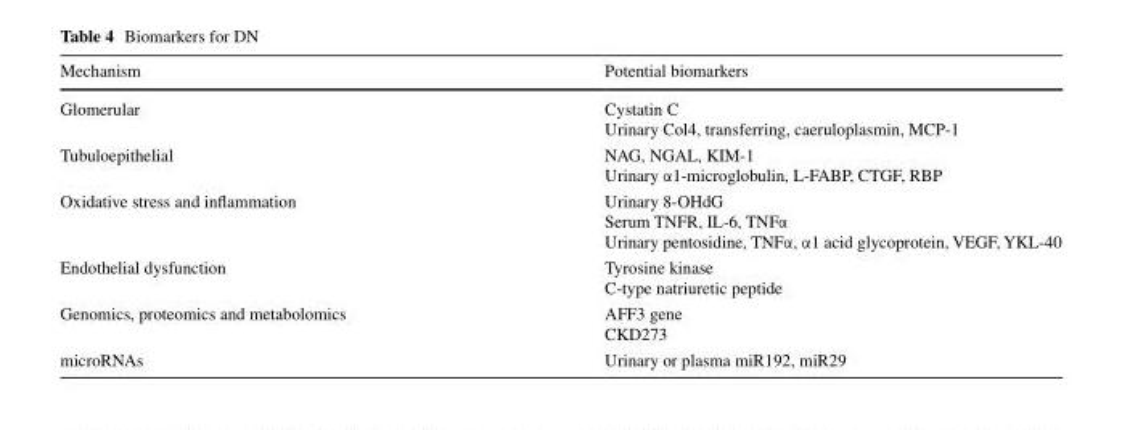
<table><thead><tr><td>Mechanism</td><td>Potential biomarkers</td></tr></thead><tbody><tr><td>Glomerular</td><td>Cystatin C Urinary Col4, transferring, caeruloplasmin, MCP-1</td></tr><tr><td>Tubuloepithelial</td><td>NAG, NGAL, KIM-1 Urinary α1-microglobulin, L-FABP, CTGF, RBP</td></tr><tr><td>Oxidative stress and inflammation</td><td>Urinary 8-OHdG Serum TNFR, IL-6, TNFα Urinary pentosidine, TNFα, α1 acid glycoprotein, VEGF, YKL-40</td></tr><tr><td>Endothelial dysfunction</td><td>Tyrosine kinase C-type natriuretic peptide</td></tr><tr><td>Genomics, proteomics and metabolomics</td><td>AFF3 gene CKD273</td></tr><tr><td>microRNAs</td><td>Urinary or plasma miR192, miR29</td></tr></tbody></table>